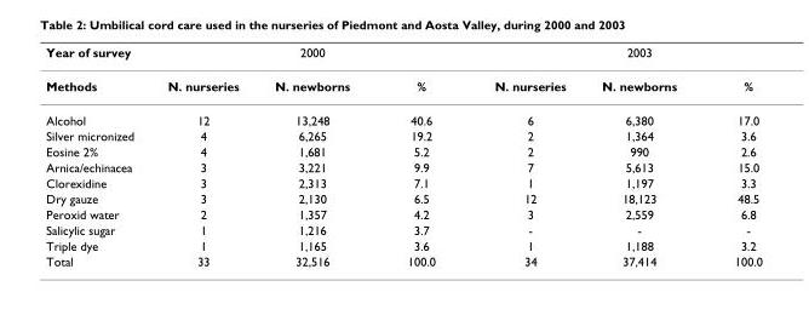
<table><thead><tr><td rowspan="2">Year of survey Methods</td><td colspan="3">2000</td><td colspan="3">2003</td></tr><tr><td>N. nurseries</td><td>N. newborns</td><td>%</td><td>N. nurseries</td><td>N. newborns</td><td>%</td></tr></thead><tbody><tr><td>Alcohol</td><td>12</td><td>13,248</td><td>40.6</td><td>6</td><td>6,380</td><td>17.0</td></tr><tr><td>Silver micronized</td><td>4</td><td>6,265</td><td>19.2</td><td>2</td><td>1,364</td><td>3.6</td></tr><tr><td>Eosine 2%</td><td>4</td><td>1,681</td><td>5.2</td><td>2</td><td>990</td><td>2.6</td></tr><tr><td>Arnica/echinacea</td><td>3</td><td>3,221</td><td>9.9</td><td>7</td><td>5,613</td><td>15.0</td></tr><tr><td>Clorexidine</td><td>3</td><td>2,313</td><td>7.1</td><td>1</td><td>1,197</td><td>3.3</td></tr><tr><td>Dry gauze</td><td>3</td><td>2,130</td><td>6.5</td><td>12</td><td>18,123</td><td>48.5</td></tr><tr><td>Peroxid water</td><td>2</td><td>1,357</td><td>4.2</td><td>3</td><td>2,559</td><td>6.8</td></tr><tr><td>Salicylic sugar</td><td>1</td><td>1,216</td><td>3.7</td><td>-</td><td>-</td><td>-</td></tr><tr><td>Triple dye</td><td>1</td><td>1,165</td><td>3.6</td><td>1</td><td>1,188</td><td>3.2</td></tr><tr><td>Total</td><td>33</td><td>32,516</td><td>100.0</td><td>34</td><td>37,414</td><td>100.0</td></tr></tbody></table>